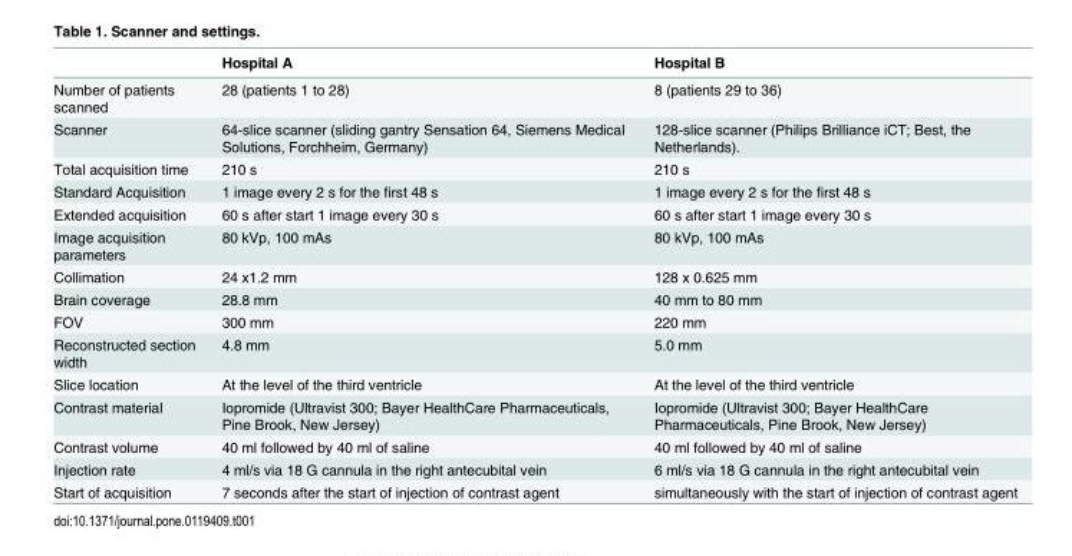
<table><thead><tr><td></td><td>Hospital A</td><td>Hospital B</td></tr></thead><tbody><tr><td>Number of patients scanned</td><td>28 (patients 1 to 28)</td><td>8 (patients 29 to 36)</td></tr><tr><td>Scanner</td><td>64-slice scanner (sliding gantry Sensation 64, Siemens Medical Solutions, Forchheim, Germany)</td><td>128-slice scanner (Philips Brilliance iCT; Best, the Netherlands).</td></tr><tr><td>Total acquisition time</td><td>210 s</td><td>210 s</td></tr><tr><td>Standard Acquisition</td><td>1 image every 2 s for the first 48 s</td><td>1 image every 2 s for the first 48 s</td></tr><tr><td>Extended acquisition</td><td>60 s after start 1 image every 30 s</td><td>60 s after start 1 image every 30 s</td></tr><tr><td>Image acquisition parameters</td><td>80 kVp, 100 mAs</td><td>80 kVp, 100 mAs</td></tr><tr><td>Collimation</td><td>24 x1.2 mm</td><td>128 x 0.625 mm</td></tr><tr><td>Brain coverage</td><td>28.8 mm</td><td>40 mm to 80 mm</td></tr><tr><td>FOV</td><td>300 mm</td><td>220 mm</td></tr><tr><td>Reconstructed section width</td><td>4.8 mm</td><td>5.0 mm</td></tr><tr><td>Slice location</td><td>At the level of the third ventricle</td><td>At the level of the third ventricle</td></tr><tr><td>Contrast material</td><td>Iopromide (Ultravist 300; Bayer HealthCare Pharmaceuticals, Pine Brook, New Jersey)</td><td>Iopromide (Ultravist 300; Bayer HealthCare Pharmaceuticals, Pine Brook, New Jersey)</td></tr><tr><td>Contrast volume</td><td>40 ml followed by 40 ml of saline</td><td>40 ml followed by 40 ml of saline</td></tr><tr><td>Injection rate</td><td>4 ml/s via 18 G cannula in the right antecubital vein</td><td>6 ml/s via 18 G cannula in the right antecubital vein</td></tr><tr><td>Start of acquisition</td><td>7 seconds after the start of injection of contrast agent</td><td>simultaneously with the start of injection of contrast agent</td></tr></tbody></table>